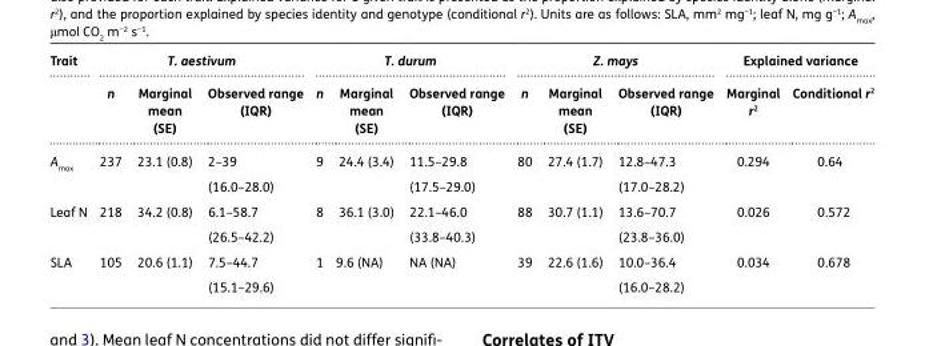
<table><thead><tr><td rowspan="2">Trait</td><td colspan="3">T. aestivum</td><td colspan="3">T. durum</td><td colspan="3">Z. mays</td><td colspan="2">Explained variance</td></tr><tr><td>n</td><td>Marginal mean (SE)</td><td>Observed range (IQR)</td><td>n</td><td>Marginal mean (SE)</td><td>Observed range (IQR)</td><td>n</td><td>Marginal mean (SE)</td><td>Observed range (IQR)</td><td>Marginal r<sup>2</sup></td><td>Conditional r<sup>2</sup></td></tr></thead><tbody><tr><td>A<sub>max</sub></td><td>237</td><td>23.1 (0.8)</td><td>2–39 (16.0–28.0)</td><td>9</td><td>24.4 (3.4)</td><td>11.5–29.8 (17.5–29.0)</td><td>80</td><td>27.4 (1.7)</td><td>12.8–47.3 (17.0–28.2)</td><td>0.294</td><td>0.64</td></tr><tr><td>Leaf N</td><td>218</td><td>34.2 (0.8)</td><td>6.1–58.7 (26.5–42.2)</td><td>8</td><td>36.1 (3.0)</td><td>22.1–46.0 (33.8–40.3)</td><td>88</td><td>30.7 (1.1)</td><td>13.6–70.7 (23.8–36.0)</td><td>0.026</td><td>0.572</td></tr><tr><td>SLA</td><td>105</td><td>20.6 (1.1)</td><td>7.5–44.7 (15.1–29.6)</td><td>1</td><td>9.6 (NA)</td><td>NA (NA)</td><td>39</td><td>22.6 (1.6)</td><td>10.0–36.4 (16.0–28.2)</td><td>0.034</td><td>0.678</td></tr></tbody></table>